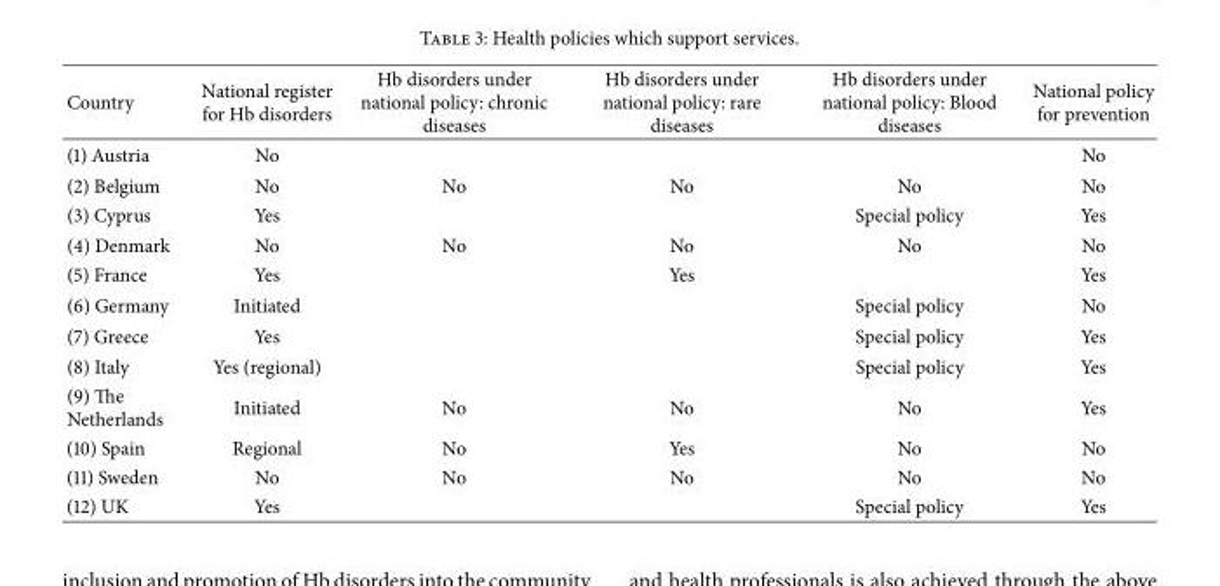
<table><thead><tr><td>Country</td><td>National register for Hb disorders</td><td>Hb disorders under national policy: chronic diseases</td><td>Hb disorders under national policy: rare diseases</td><td>Hb disorders under national policy: Blood diseases</td><td>National policy for prevention</td></tr></thead><tbody><tr><td>(1) Austria</td><td>No</td><td></td><td></td><td></td><td>No</td></tr><tr><td>(2) Belgium</td><td>No</td><td>No</td><td>No</td><td>No</td><td>No</td></tr><tr><td>(3) Cyprus</td><td>Yes</td><td></td><td></td><td>Special policy</td><td>Yes</td></tr><tr><td>(4) Denmark</td><td>No</td><td>No</td><td>No</td><td>No</td><td>No</td></tr><tr><td>(5) France</td><td>Yes</td><td></td><td>Yes</td><td></td><td>Yes</td></tr><tr><td>(6) Germany</td><td>Initiated</td><td></td><td></td><td>Special policy</td><td>No</td></tr><tr><td>(7) Greece</td><td>Yes</td><td></td><td></td><td>Special policy</td><td>Yes</td></tr><tr><td>(8) Italy</td><td>Yes (regional)</td><td></td><td></td><td>Special policy</td><td>Yes</td></tr><tr><td>(9) The Netherlands</td><td>Initiated</td><td>No</td><td>No</td><td>No</td><td>Yes</td></tr><tr><td>(10) Spain</td><td>Regional</td><td>No</td><td>Yes</td><td>No</td><td>No</td></tr><tr><td>(11) Sweden</td><td>No</td><td>No</td><td>No</td><td>No</td><td>No</td></tr><tr><td>(12) UK</td><td>Yes</td><td></td><td></td><td>Special policy</td><td>Yes</td></tr></tbody></table>